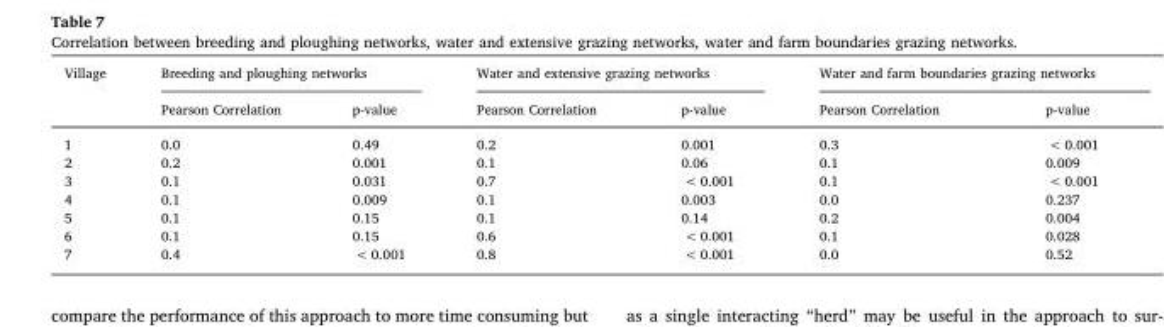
<table><thead><tr><td rowspan="2">Village</td><td colspan="2">Breeding and ploughing networks</td><td colspan="2">Water and extensive grazing networks</td><td colspan="2">Water and farm boundaries grazing networks</td></tr><tr><td>Pearson Correlation</td><td>p-value</td><td>Pearson Correlation</td><td>p-value</td><td>Pearson Correlation</td><td>p-value</td></tr></thead><tbody><tr><td>1</td><td>0.0</td><td>0.49</td><td>0.2</td><td>0.001</td><td>0.3</td><td>&lt; 0.001</td></tr><tr><td>2</td><td>0.2</td><td>0.001</td><td>0.1</td><td>0.06</td><td>0.1</td><td>0.009</td></tr><tr><td>3</td><td>0.1</td><td>0.031</td><td>0.7</td><td>&lt; 0.001</td><td>0.1</td><td>&lt; 0.001</td></tr><tr><td>4</td><td>0.1</td><td>0.009</td><td>0.1</td><td>0.003</td><td>0.0</td><td>0.237</td></tr><tr><td>5</td><td>0.1</td><td>0.15</td><td>0.1</td><td>0.14</td><td>0.2</td><td>0.004</td></tr><tr><td>6</td><td>0.1</td><td>0.15</td><td>0.6</td><td>&lt; 0.001</td><td>0.1</td><td>0.028</td></tr><tr><td>7</td><td>0.4</td><td>&lt; 0.001</td><td>0.8</td><td>&lt; 0.001</td><td>0.0</td><td>0.52</td></tr></tbody></table>